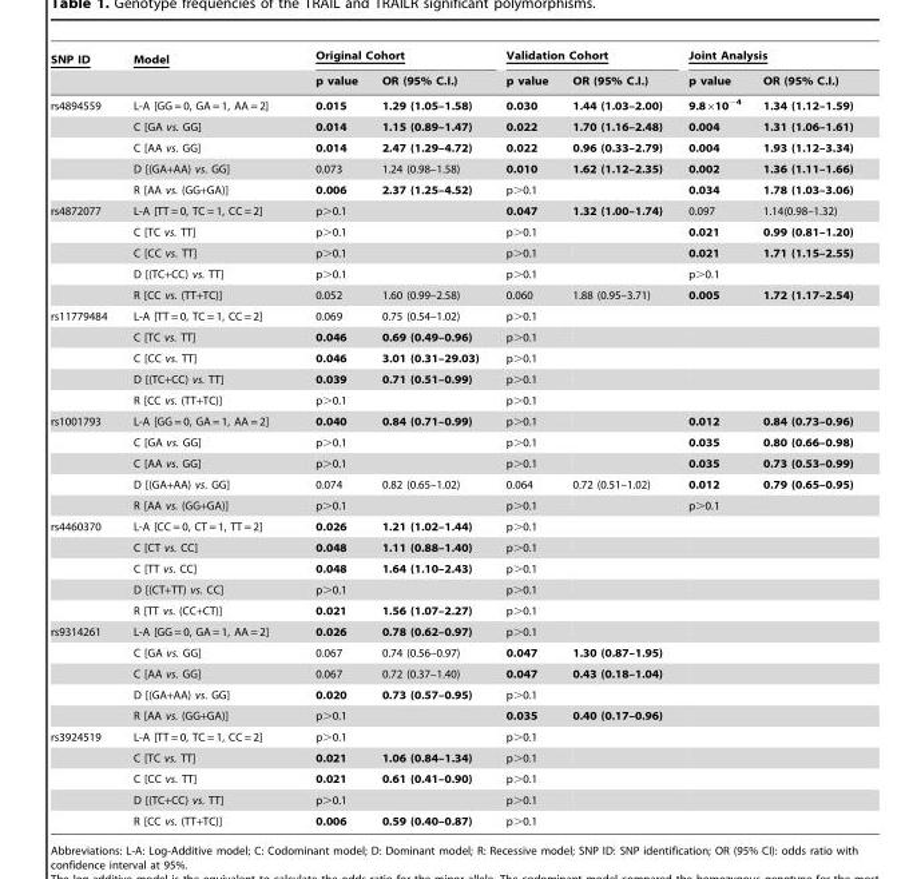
<table><thead><tr><td rowspan="2">SNP ID</td><td rowspan="2">Model</td><td colspan="2">Original Cohort</td><td colspan="2">Validation Cohort</td><td colspan="2">Joint Analysis</td></tr><tr><td>p value</td><td>OR (95% C.I.)</td><td>p value</td><td>OR (95% C.I.)</td><td>p value</td><td>OR (95% C.I.)</td></tr></thead><tbody><tr><td rowspan="5">rs4894559</td><td>L-A [GG = 0, GA = 1, AA = 2]</td><td>0.015</td><td>1.29 (1.05–1.58)</td><td>0.030</td><td>1.44 (1.03–2.00)</td><td>9.8×10<sup>−4</sup></td><td>1.34 (1.12–1.59)</td></tr><tr><td>C [GA vs. GG]</td><td>0.014</td><td>1.15 (0.89–1.47)</td><td>0.022</td><td>1.70 (1.16–2.48)</td><td>0.004</td><td>1.31 (1.06–1.61)</td></tr><tr><td>C [AA vs. GG]</td><td>0.014</td><td>2.47 (1.29–4.72)</td><td>0.022</td><td>0.96 (0.33–2.79)</td><td>0.004</td><td>1.93 (1.12–3.34)</td></tr><tr><td>D [(GA+AA) vs. GG]</td><td>0.073</td><td>1.24 (0.98–1.58)</td><td>0.010</td><td>1.62 (1.12–2.35)</td><td>0.002</td><td>1.36 (1.11–1.66)</td></tr><tr><td>R [AA vs. (GG+GA)]</td><td>0.006</td><td>2.37 (1.25–4.52)</td><td>p&gt;0.1</td><td></td><td>0.034</td><td>1.78 (1.03–3.06)</td></tr><tr><td rowspan="5">rs4872077</td><td>L-A [TT = 0, TC = 1, CC = 2]</td><td>p&gt;0.1</td><td></td><td>0.047</td><td>1.32 (1.00–1.74)</td><td>0.097</td><td>1.14(0.98–1.32)</td></tr><tr><td>C [TC vs. TT]</td><td>p&gt;0.1</td><td></td><td>p&gt;0.1</td><td></td><td>0.021</td><td>0.99 (0.81–1.20)</td></tr><tr><td>C [CC vs. TT]</td><td>p&gt;0.1</td><td></td><td>p&gt;0.1</td><td></td><td>0.021</td><td>1.71 (1.15–2.55)</td></tr><tr><td>D [(TC+CC) vs. TT]</td><td>p&gt;0.1</td><td></td><td>p&gt;0.1</td><td></td><td>p&gt;0.1</td><td></td></tr><tr><td>R [CC vs. (TT+TC)]</td><td>0.052</td><td>1.60 (0.99–2.58)</td><td>0.060</td><td>1.88 (0.95–3.71)</td><td>0.005</td><td>1.72 (1.17–2.54)</td></tr><tr><td rowspan="5">rs11779484</td><td>L-A [TT = 0, TC = 1, CC = 2]</td><td>0.069</td><td>0.75 (0.54–1.02)</td><td>p&gt;0.1</td><td></td><td></td><td></td></tr><tr><td>C [TC vs. TT]</td><td>0.046</td><td>0.69 (0.49–0.96)</td><td>p&gt;0.1</td><td></td><td></td><td></td></tr><tr><td>C [CC vs. TT]</td><td>0.046</td><td>3.01 (0.31–29.03)</td><td>p&gt;0.1</td><td></td><td></td><td></td></tr><tr><td>D [(TC+CC) vs. TT]</td><td>0.039</td><td>0.71 (0.51–0.99)</td><td>p&gt;0.1</td><td></td><td></td><td></td></tr><tr><td>R [CC vs. (TT+TC)]</td><td>p&gt;0.1</td><td></td><td>p&gt;0.1</td><td></td><td></td><td></td></tr><tr><td rowspan="5">rs1001793</td><td>L-A [GG = 0, GA = 1, AA = 2]</td><td>0.040</td><td>0.84 (0.71–0.99)</td><td>p&gt;0.1</td><td></td><td>0.012</td><td>0.84 (0.73–0.96)</td></tr><tr><td>C [GA vs. GG]</td><td>p&gt;0.1</td><td></td><td>p&gt;0.1</td><td></td><td>0.035</td><td>0.80 (0.66–0.98)</td></tr><tr><td>C [AA vs. GG]</td><td>p&gt;0.1</td><td></td><td>p&gt;0.1</td><td></td><td>0.035</td><td>0.73 (0.53–0.99)</td></tr><tr><td>D [(GA+AA) vs. GG]</td><td>0.074</td><td>0.82 (0.65–1.02)</td><td>0.064</td><td>0.72 (0.51–1.02)</td><td>0.012</td><td>0.79 (0.65–0.95)</td></tr><tr><td>R [AA vs. (GG+GA)]</td><td>p&gt;0.1</td><td></td><td>p&gt;0.1</td><td></td><td>p&gt;0.1</td><td></td></tr><tr><td rowspan="5">rs4460370</td><td>L-A [CC = 0, CT = 1, TT = 2]</td><td>0.026</td><td>1.21 (1.02–1.44)</td><td>p&gt;0.1</td><td></td><td></td><td></td></tr><tr><td>C [CT vs. CC]</td><td>0.048</td><td>1.11 (0.88–1.40)</td><td>p&gt;0.1</td><td></td><td></td><td></td></tr><tr><td>C [TT vs. CC]</td><td>0.048</td><td>1.64 (1.10–2.43)</td><td>p&gt;0.1</td><td></td><td></td><td></td></tr><tr><td>D [(CT+TT) vs. CC]</td><td>p&gt;0.1</td><td></td><td>p&gt;0.1</td><td></td><td></td><td></td></tr><tr><td>R [TT vs. (CC+CT)]</td><td>0.021</td><td>1.56 (1.07–2.27)</td><td>p&gt;0.1</td><td></td><td></td><td></td></tr><tr><td rowspan="5">rs9314261</td><td>L-A [GG = 0, GA = 1, AA = 2]</td><td>0.026</td><td>0.78 (0.62–0.97)</td><td>p&gt;0.1</td><td></td><td></td><td></td></tr><tr><td>C [GA vs. GG]</td><td>0.067</td><td>0.74 (0.56–0.97)</td><td>0.047</td><td>1.30 (0.87–1.95)</td><td></td><td></td></tr><tr><td>C [AA vs. GG]</td><td>0.067</td><td>0.72 (0.37–1.40)</td><td>0.047</td><td>0.43 (0.18–1.04)</td><td></td><td></td></tr><tr><td>D [(GA+AA) vs. GG]</td><td>0.020</td><td>0.73 (0.57–0.95)</td><td>p&gt;0.1</td><td></td><td></td><td></td></tr><tr><td>R [AA vs. (GG+GA)]</td><td>p&gt;0.1</td><td></td><td>0.035</td><td>0.40 (0.17–0.96)</td><td></td><td></td></tr><tr><td rowspan="5">rs3924519</td><td>L-A [TT = 0, TC = 1, CC = 2]</td><td>p&gt;0.1</td><td></td><td>p&gt;0.1</td><td></td><td></td><td></td></tr><tr><td>C [TC vs. TT]</td><td>0.021</td><td>1.06 (0.84–1.34)</td><td>p&gt;0.1</td><td></td><td></td><td></td></tr><tr><td>C [CC vs. TT]</td><td>0.021</td><td>0.61 (0.41–0.90)</td><td>p&gt;0.1</td><td></td><td></td><td></td></tr><tr><td>D [(TC+CC) vs. TT]</td><td>p&gt;0.1</td><td></td><td>p&gt;0.1</td><td></td><td></td><td></td></tr><tr><td>R [CC vs. (TT+TC)]</td><td>0.006</td><td>0.59 (0.40–0.87)</td><td>p&gt;0.1</td><td></td><td></td><td></td></tr></tbody></table>